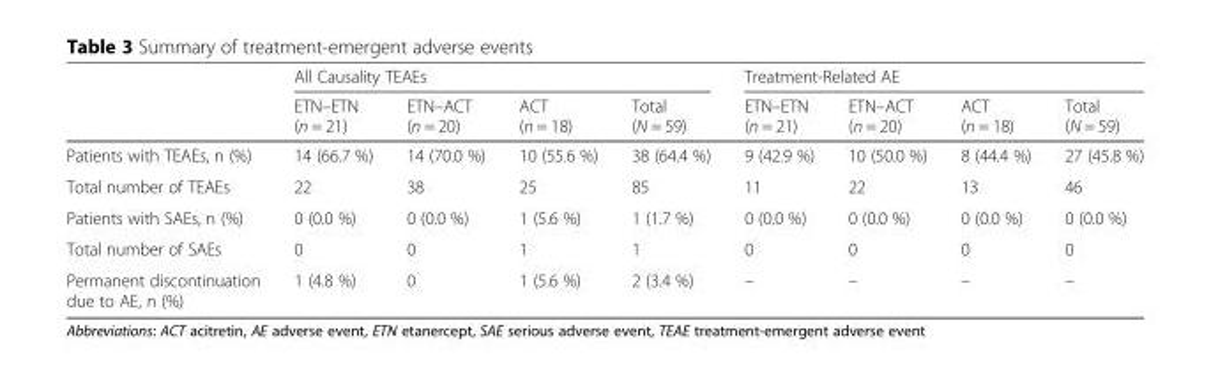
<table><thead><tr><td rowspan="2"></td><td colspan="4">All Causality TEAEs</td><td colspan="4">Treatment-Related AE</td></tr><tr><td>ETN–ETN (n = 21)</td><td>ETN–ACT (n = 20)</td><td>ACT (n = 18)</td><td>Total (N = 59)</td><td>ETN–ETN (n = 21)</td><td>ETN–ACT (n = 20)</td><td>ACT (n = 18)</td><td>Total (N = 59)</td></tr></thead><tbody><tr><td>Patients with TEAEs, n (%)</td><td>14 (66.7 %)</td><td>14 (70.0 %)</td><td>10 (55.6 %)</td><td>38 (64.4 %)</td><td>9 (42.9 %)</td><td>10 (50.0 %)</td><td>8 (44.4 %)</td><td>27 (45.8 %)</td></tr><tr><td>Total number of TEAEs</td><td>22</td><td>38</td><td>25</td><td>85</td><td>11</td><td>22</td><td>13</td><td>46</td></tr><tr><td>Patients with SAEs, n (%)</td><td>0 (0.0 %)</td><td>0 (0.0 %)</td><td>1 (5.6 %)</td><td>1 (1.7 %)</td><td>0 (0.0 %)</td><td>0 (0.0 %)</td><td>0 (0.0 %)</td><td>0 (0.0 %)</td></tr><tr><td>Total number of SAEs</td><td>0</td><td>0</td><td>1</td><td>1</td><td>0</td><td>0</td><td>0</td><td>0</td></tr><tr><td>Permanent discontinuation due to AE, n (%)</td><td>1 (4.8 %)</td><td>0</td><td>1 (5.6 %)</td><td>2 (3.4 %)</td><td>–</td><td>–</td><td>–</td><td>–</td></tr></tbody></table>